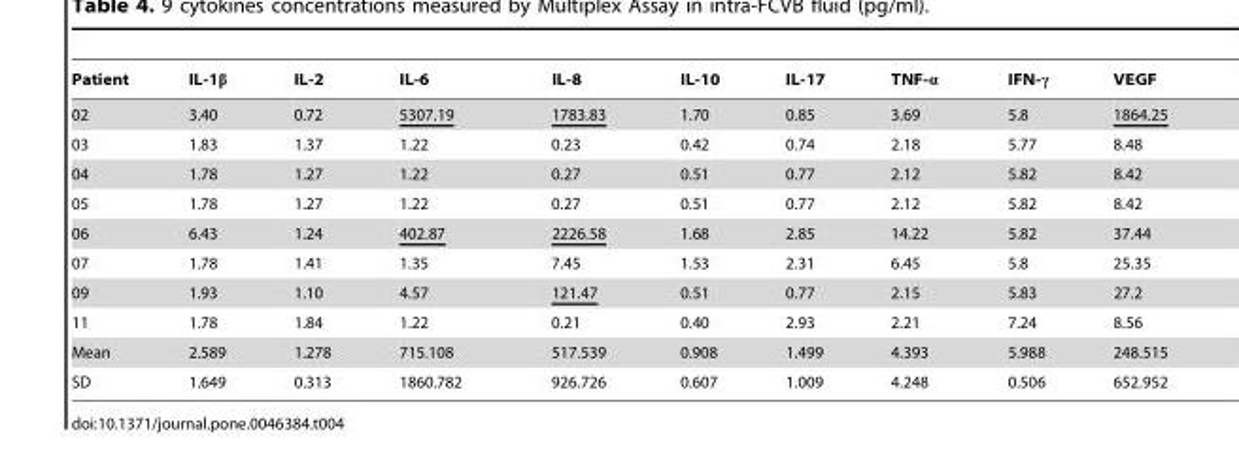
<table><thead><tr><td>Patient</td><td>IL-1β</td><td>IL-2</td><td>IL-6</td><td>IL-8</td><td>IL-10</td><td>IL-17</td><td>TNF-α</td><td>IFN-γ</td><td>VEGF</td></tr></thead><tbody><tr><td>02</td><td>3.40</td><td>0.72</td><td>5307.19</td><td>1783.83</td><td>1.70</td><td>0.85</td><td>3.69</td><td>5.8</td><td>1864.25</td></tr><tr><td>03</td><td>1.83</td><td>1.37</td><td>1.22</td><td>0.23</td><td>0.42</td><td>0.74</td><td>2.18</td><td>5.77</td><td>8.48</td></tr><tr><td>04</td><td>1.78</td><td>1.27</td><td>1.22</td><td>0.27</td><td>0.51</td><td>0.77</td><td>2.12</td><td>5.82</td><td>8.42</td></tr><tr><td>05</td><td>1.78</td><td>1.27</td><td>1.22</td><td>0.27</td><td>0.51</td><td>0.77</td><td>2.12</td><td>5.82</td><td>8.42</td></tr><tr><td>06</td><td>6.43</td><td>1.24</td><td>402.87</td><td>2226.58</td><td>1.68</td><td>2.85</td><td>14.22</td><td>5.82</td><td>37.44</td></tr><tr><td>07</td><td>1.78</td><td>1.41</td><td>1.35</td><td>7.45</td><td>1.53</td><td>2.31</td><td>6.45</td><td>5.8</td><td>25.35</td></tr><tr><td>09</td><td>1.93</td><td>1.10</td><td>4.57</td><td>121.47</td><td>0.51</td><td>0.77</td><td>2.15</td><td>5.83</td><td>27.2</td></tr><tr><td>11</td><td>1.78</td><td>1.84</td><td>1.22</td><td>0.21</td><td>0.40</td><td>2.93</td><td>2.21</td><td>7.24</td><td>8.56</td></tr><tr><td>Mean</td><td>2.589</td><td>1.278</td><td>715.108</td><td>517.539</td><td>0.908</td><td>1.499</td><td>4.393</td><td>5.988</td><td>248.515</td></tr><tr><td>SD</td><td>1.649</td><td>0.313</td><td>1860.782</td><td>926.726</td><td>0.607</td><td>1.009</td><td>4.248</td><td>0.506</td><td>652.952</td></tr></tbody></table>